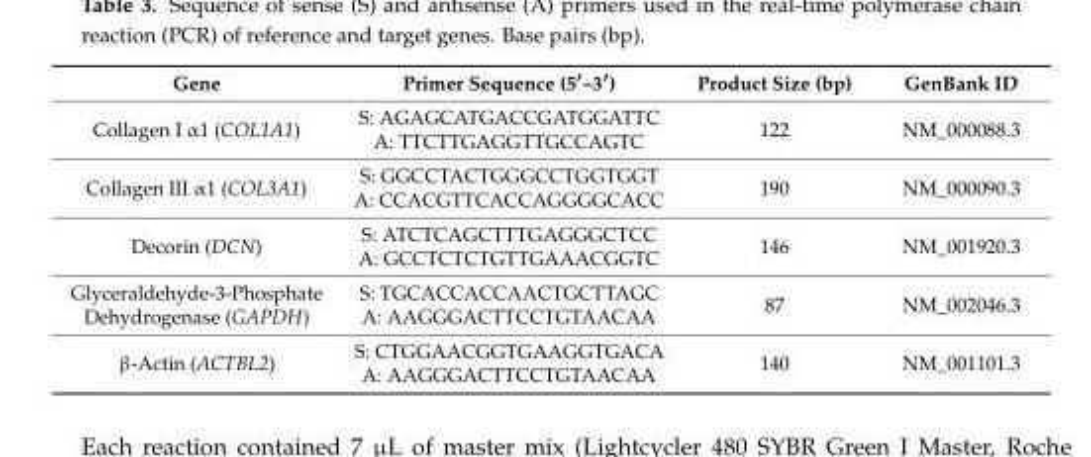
<table><thead><tr><td>Gene</td><td>Primer Sequence (5′–3′)</td><td>Product Size (bp)</td><td>GenBank ID</td></tr></thead><tbody><tr><td>Collagen I α1 (COL1A1)</td><td>S: AGAGCATGACCGATGGATTC A: TTCTTGAGGTTGCCAGTC</td><td>122</td><td>NM_000088.3</td></tr><tr><td>Collagen III α1 (COL3A1)</td><td>S: GGCCTACTGGGCCTGGTGGT A: CCACGTTCACCAGGGGCACC</td><td>190</td><td>NM_000090.3</td></tr><tr><td>Decorin (DCN)</td><td>S: ATCTCAGCTTTGAGGGCTCC A: GCCTCTCTGTTGAAACGGTC</td><td>146</td><td>NM_001920.3</td></tr><tr><td>Glyceraldehyde-3-Phosphate Dehydrogenase (GAPDH)</td><td>S: TGCACCACCAACTGCTTAGC A: AAGGGACTTCCTGTAACAA</td><td>87</td><td>NM_002046.3</td></tr><tr><td>β-Actin (ACTBL2)</td><td>S: CTGGAACGGTGAAGGTGACA A: AAGGGACTTCCTGTAACAA</td><td>140</td><td>NM_001101.3</td></tr></tbody></table>